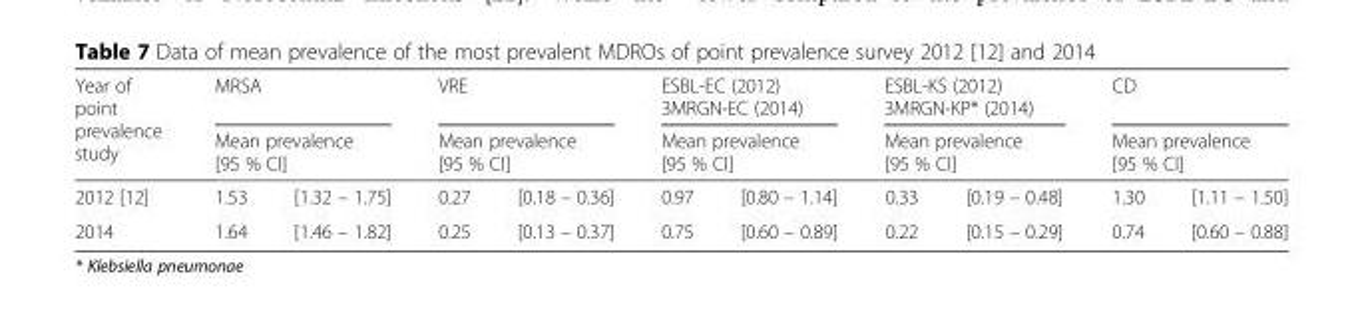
<table><thead><tr><td rowspan="3">Year of point prevalence study 2012 [12]</td><td rowspan="2" colspan="2">MRSA Mean prevalence [95 % CI]</td><td rowspan="2" colspan="2">VRE Mean prevalence [95 % CI]</td><td rowspan="2" colspan="2">ESBL-EC (2012) 3MRGN-EC (2014) Mean prevalence [95 % CI]</td><td rowspan="2" colspan="2">ESBL-KS (2012) 3MRGN-KP* (2014) Mean prevalence [95 % CI]</td><td rowspan="2" colspan="2">CD Mean prevalence [95 % CI]</td></tr><tr></tr><tr><td>1.53</td><td>[1.32 – 1.75]</td><td>0.27</td><td>[0.18 – 0.36]</td><td>0.97</td><td>[0.80 – 1.14]</td><td>0.33</td><td>[0.19 – 0.48]</td><td>1.30</td><td>[1.11 – 1.50]</td></tr></thead><tbody><tr><td>2014</td><td>1.64</td><td>[1.46 – 1.82]</td><td>0.25</td><td>[0.13 – 0.37]</td><td>0.75</td><td>[0.60 – 0.89]</td><td>0.22</td><td>[0.15 – 0.29]</td><td>0.74</td><td>[0.60 – 0.88]</td></tr></tbody></table>